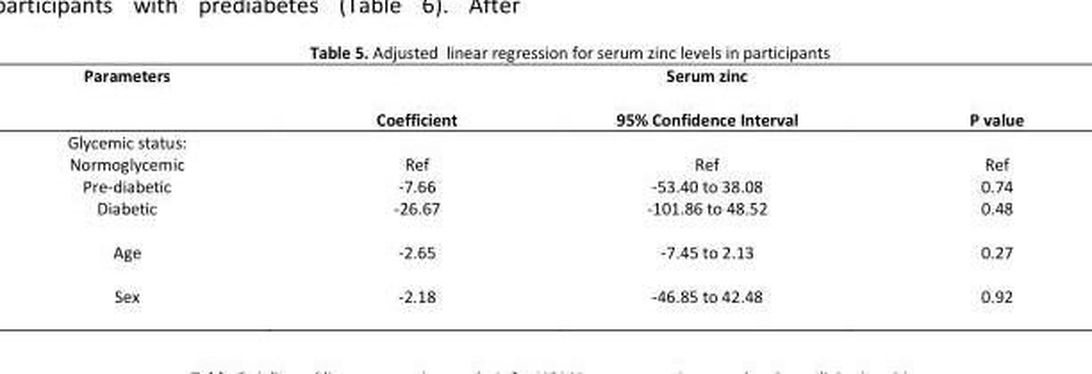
<table><thead><tr><td rowspan="2">Parameters</td><td colspan="3">Serum zinc</td></tr><tr><td>Coefficient</td><td>95% Confidence Interval</td><td>P value</td></tr></thead><tbody><tr><td colspan="4">Glycemic status:</td></tr><tr><td>Normoglycemic</td><td>Ref</td><td>Ref</td><td>Ref</td></tr><tr><td>Pre-diabetic</td><td>-7.66</td><td>-53.40 to 38.08</td><td>0.74</td></tr><tr><td>Diabetic</td><td>-26.67</td><td>-101.86 to 48.52</td><td>0.48</td></tr><tr><td>Age</td><td>-2.65</td><td>-7.45 to 2.13</td><td>0.27</td></tr><tr><td>Sex</td><td>-2.18</td><td>-46.85 to 42.48</td><td>0.92</td></tr></tbody></table>